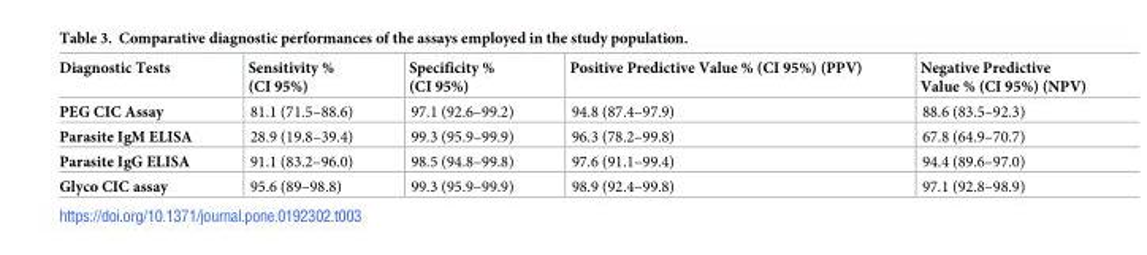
<table><thead><tr><td>Diagnostic Tests</td><td>Sensitivity % (CI 95%)</td><td>Specificity % (CI 95%)</td><td>Positive Predictive Value % (CI 95%) (PPV)</td><td>Negative Predictive Value % (CI 95%) (NPV)</td></tr></thead><tbody><tr><td>PEG CIC Assay</td><td>81.1 (71.5–88.6)</td><td>97.1 (92.6–99.2)</td><td>94.8 (87.4–97.9)</td><td>88.6 (83.5–92.3)</td></tr><tr><td>Parasite IgM ELISA</td><td>28.9 (19.8–39.4)</td><td>99.3 (95.9–99.9)</td><td>96.3 (78.2–99.8)</td><td>67.8 (64.9–70.7)</td></tr><tr><td>Parasite IgG ELISA</td><td>91.1 (83.2–96.0)</td><td>98.5 (94.8–99.8)</td><td>97.6 (91.1–99.4)</td><td>94.4 (89.6–97.0)</td></tr><tr><td>Glyco CIC assay</td><td>95.6 (89–98.8)</td><td>99.3 (95.9–99.9)</td><td>98.9 (92.4–99.8)</td><td>97.1 (92.8–98.9)</td></tr></tbody></table>